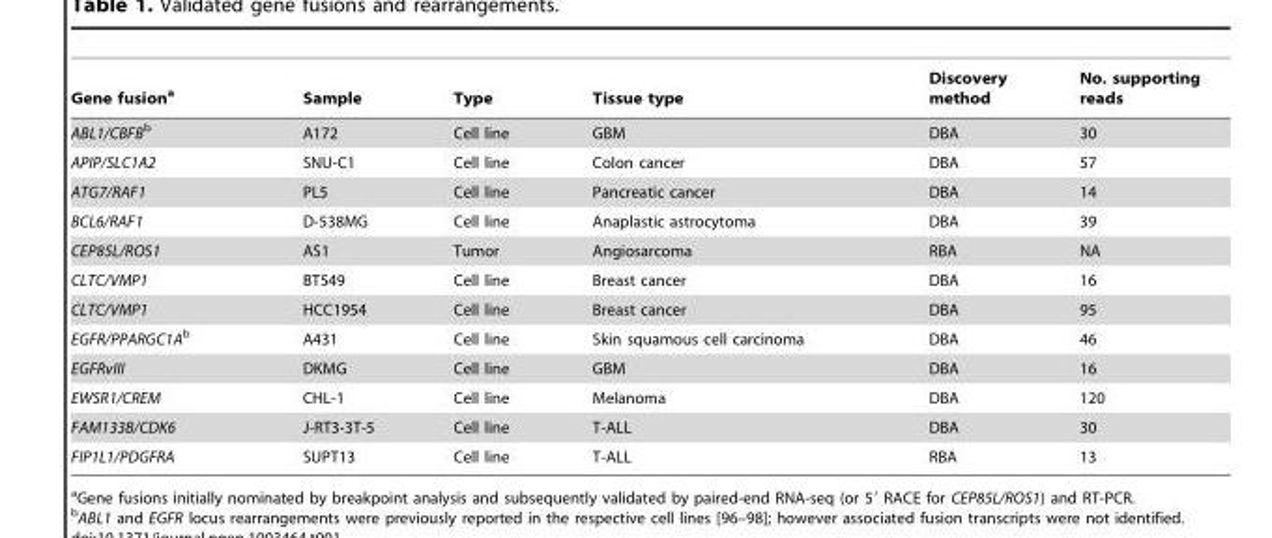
<table><thead><tr><td>Gene fusion<sup>a</sup></td><td>Sample</td><td>Type</td><td>Tissue type</td><td>Discovery method</td><td>No. supporting reads</td></tr></thead><tbody><tr><td>ABL1/CBFBb</td><td>A172</td><td>Cell line</td><td>GBM</td><td>DBA</td><td>30</td></tr><tr><td>APIP/SLC1A2</td><td>SNU-C1</td><td>Cell line</td><td>Colon cancer</td><td>DBA</td><td>57</td></tr><tr><td>ATG7/RAF1</td><td>PL5</td><td>Cell line</td><td>Pancreatic cancer</td><td>DBA</td><td>14</td></tr><tr><td>BCL6/RAF1</td><td>D-538MG</td><td>Cell line</td><td>Anaplastic astrocytoma</td><td>DBA</td><td>39</td></tr><tr><td>CEP85L/ROS1</td><td>AS1</td><td>Tumor</td><td>Angiosarcoma</td><td>RBA</td><td>NA</td></tr><tr><td>CLTC/VMP1</td><td>BT549</td><td>Cell line</td><td>Breast cancer</td><td>DBA</td><td>16</td></tr><tr><td>CLTC/VMP1</td><td>HCC1954</td><td>Cell line</td><td>Breast cancer</td><td>DBA</td><td>95</td></tr><tr><td>EGFR/PPARGC1Ab</td><td>A431</td><td>Cell line</td><td>Skin squamous cell carcinoma</td><td>DBA</td><td>46</td></tr><tr><td>EGFRvIII</td><td>DKMG</td><td>Cell line</td><td>GBM</td><td>DBA</td><td>16</td></tr><tr><td>EWSR1/CREM</td><td>CHL-1</td><td>Cell line</td><td>Melanoma</td><td>DBA</td><td>120</td></tr><tr><td>FAM133B/CDK6</td><td>J-RT3-3T-5</td><td>Cell line</td><td>T-ALL</td><td>DBA</td><td>30</td></tr><tr><td>FIP1L1/PDGFRA</td><td>SUPT13</td><td>Cell line</td><td>T-ALL</td><td>RBA</td><td>13</td></tr></tbody></table>